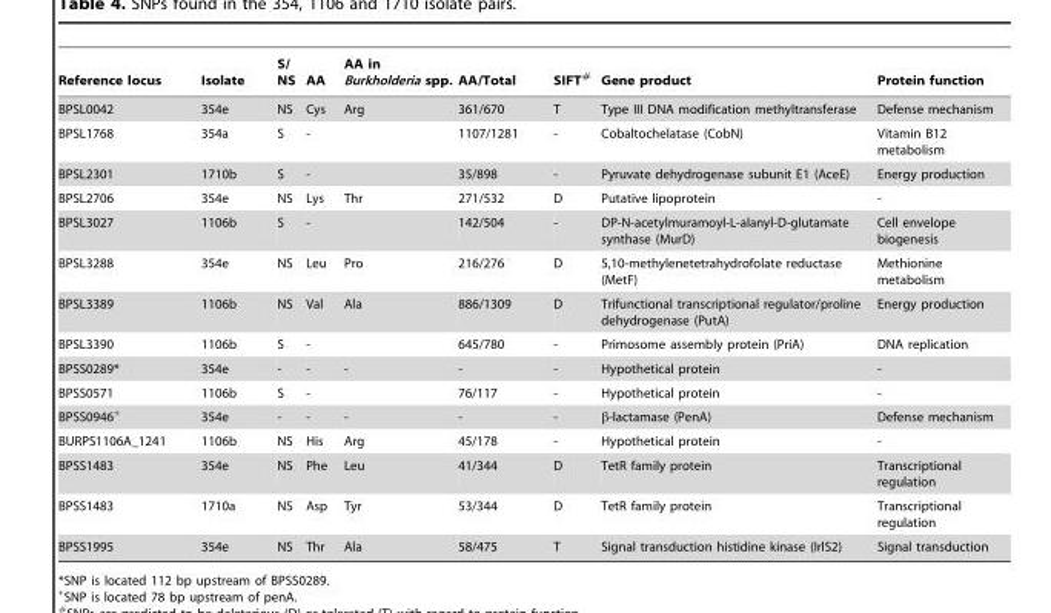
<table><thead><tr><td>Reference locus</td><td>Isolate</td><td>S/ NS</td><td>AA</td><td>AA in Burkholderia spp.</td><td>AA/Total</td><td>SIFT#</td><td>Gene product</td><td>Protein function</td></tr></thead><tbody><tr><td>BPSL0042</td><td>354e</td><td>NS</td><td>Cys</td><td>Arg</td><td>361/670</td><td>T</td><td>Type III DNA modification methyltransferase</td><td>Defense mechanism</td></tr><tr><td>BPSL1768</td><td>354a</td><td>S</td><td>-</td><td></td><td>1107/1281</td><td>-</td><td>Cobaltochelatase (CobN)</td><td>Vitamin B12 metabolism</td></tr><tr><td>BPSL2301</td><td>1710b</td><td>S</td><td>-</td><td></td><td>35/898</td><td>-</td><td>Pyruvate dehydrogenase subunit E1 (AceE)</td><td>Energy production</td></tr><tr><td>BPSL2706</td><td>354e</td><td>NS</td><td>Lys</td><td>Thr</td><td>271/532</td><td>D</td><td>Putative lipoprotein</td><td>-</td></tr><tr><td>BPSL3027</td><td>1106b</td><td>S</td><td>-</td><td></td><td>142/504</td><td>-</td><td>DP-N-acetylmuramoyl-L-alanyl-D-glutamate synthase (MurD)</td><td>Cell envelope biogenesis</td></tr><tr><td>BPSL3288</td><td>354e</td><td>NS</td><td>Leu</td><td>Pro</td><td>216/276</td><td>D</td><td>5,10-methylenetetrahydrofolate reductase (MetF)</td><td>Methionine metabolism</td></tr><tr><td>BPSL3389</td><td>1106b</td><td>NS</td><td>Val</td><td>Ala</td><td>886/1309</td><td>D</td><td>Trifunctional transcriptional regulator/proline dehydrogenase (PutA)</td><td>Energy production</td></tr><tr><td>BPSL3390</td><td>1106b</td><td>S</td><td>-</td><td></td><td>645/780</td><td>-</td><td>Primosome assembly protein (PriA)</td><td>DNA replication</td></tr><tr><td>BPSS0289*</td><td>354e</td><td>-</td><td>-</td><td>-</td><td>-</td><td>-</td><td>Hypothetical protein</td><td>-</td></tr><tr><td>BPSS0571</td><td>1106b</td><td>S</td><td>-</td><td></td><td>76/117</td><td>-</td><td>Hypothetical protein</td><td>-</td></tr><tr><td>BPSS0946+</td><td>354e</td><td>-</td><td>-</td><td>-</td><td>-</td><td>-</td><td>β-lactamase (PenA)</td><td>Defense mechanism</td></tr><tr><td>BURPS1106A_1241</td><td>1106b</td><td>NS</td><td>His</td><td>Arg</td><td>45/178</td><td>-</td><td>Hypothetical protein</td><td>-</td></tr><tr><td>BPSS1483</td><td>354e</td><td>NS</td><td>Phe</td><td>Leu</td><td>41/344</td><td>D</td><td>TetR family protein</td><td>Transcriptional regulation</td></tr><tr><td>BPSS1483</td><td>1710a</td><td>NS</td><td>Asp</td><td>Tyr</td><td>53/344</td><td>D</td><td>TetR family protein</td><td>Transcriptional regulation</td></tr><tr><td>BPSS1995</td><td>354e</td><td>NS</td><td>Thr</td><td>Ala</td><td>58/475</td><td>T</td><td>Signal transduction histidine kinase (IrlS2)</td><td>Signal transduction</td></tr></tbody></table>